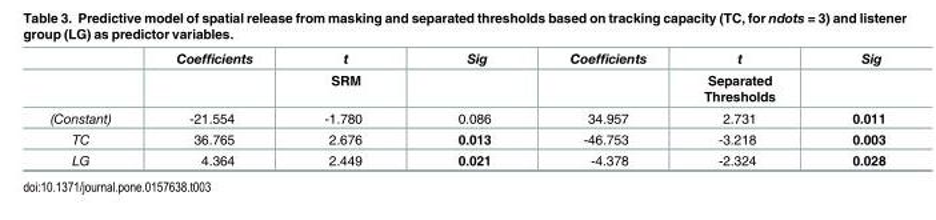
<table><thead><tr><td rowspan="2"></td><td rowspan="2">Coefficients</td><td rowspan="2">t SRM</td><td rowspan="2">Sig</td><td rowspan="2">Coefficients</td><td rowspan="2">t Separated Thresholds</td><td rowspan="2">Sig</td></tr><tr></tr></thead><tbody><tr><td>(Constant)</td><td>-21.554</td><td>-1.780</td><td>0.086</td><td>34.957</td><td>2.731</td><td>0.011</td></tr><tr><td>TC</td><td>36.765</td><td>2.676</td><td>0.013</td><td>-46.753</td><td>-3.218</td><td>0.003</td></tr><tr><td>LG</td><td>4.364</td><td>2.449</td><td>0.021</td><td>-4.378</td><td>-2.324</td><td>0.028</td></tr></tbody></table>